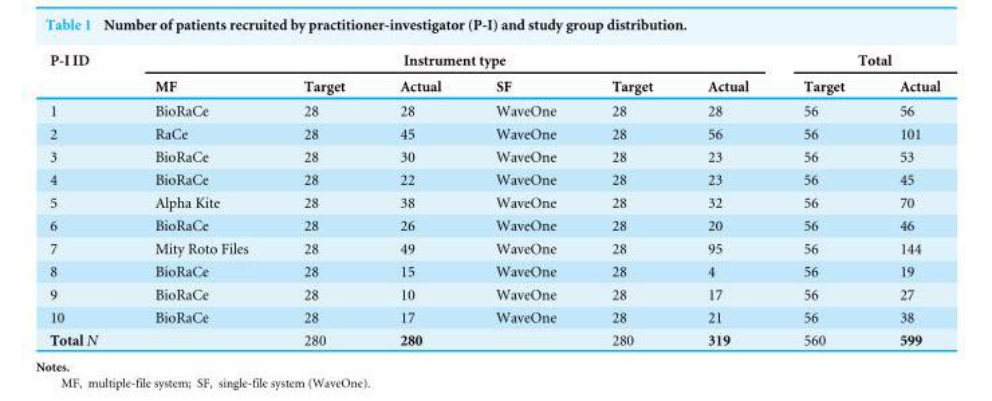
<table><thead><tr><td rowspan="2">P-I ID</td><td colspan="6">Instrument type</td><td colspan="2">Total</td></tr><tr><td>MF</td><td>Target</td><td>Actual</td><td>SF</td><td>Target</td><td>Actual</td><td>Target</td><td>Actual</td></tr></thead><tbody><tr><td>1</td><td>BioRaCe</td><td>28</td><td>28</td><td>WaveOne</td><td>28</td><td>28</td><td>56</td><td>56</td></tr><tr><td>2</td><td>RaCe</td><td>28</td><td>45</td><td>WaveOne</td><td>28</td><td>56</td><td>56</td><td>101</td></tr><tr><td>3</td><td>BioRaCe</td><td>28</td><td>30</td><td>WaveOne</td><td>28</td><td>23</td><td>56</td><td>53</td></tr><tr><td>4</td><td>BioRaCe</td><td>28</td><td>22</td><td>WaveOne</td><td>28</td><td>23</td><td>56</td><td>45</td></tr><tr><td>5</td><td>Alpha Kite</td><td>28</td><td>38</td><td>WaveOne</td><td>28</td><td>32</td><td>56</td><td>70</td></tr><tr><td>6</td><td>BioRaCe</td><td>28</td><td>26</td><td>WaveOne</td><td>28</td><td>20</td><td>56</td><td>46</td></tr><tr><td>7</td><td>Mity Roto Files</td><td>28</td><td>49</td><td>WaveOne</td><td>28</td><td>95</td><td>56</td><td>144</td></tr><tr><td>8</td><td>BioRaCe</td><td>28</td><td>15</td><td>WaveOne</td><td>28</td><td>4</td><td>56</td><td>19</td></tr><tr><td>9</td><td>BioRaCe</td><td>28</td><td>10</td><td>WaveOne</td><td>28</td><td>17</td><td>56</td><td>27</td></tr><tr><td>10</td><td>BioRaCe</td><td>28</td><td>17</td><td>WaveOne</td><td>28</td><td>21</td><td>56</td><td>38</td></tr><tr><td>Total N</td><td></td><td>280</td><td>280</td><td></td><td>280</td><td>319</td><td>560</td><td>599</td></tr></tbody></table>